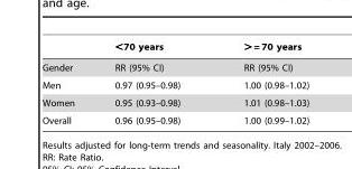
<table><thead><tr><td></td><td>&lt;70 years</td><td>&gt; = 70 years</td></tr></thead><tbody><tr><td>Gender</td><td>RR (95% CI)</td><td>RR (95% CI)</td></tr><tr><td>Men</td><td>0.97 (0.95–0.98)</td><td>1.00 (0.98–1.02)</td></tr><tr><td>Women</td><td>0.95 (0.93–0.98)</td><td>1.01 (0.98–1.03)</td></tr><tr><td>Overall</td><td>0.96 (0.95–0.98)</td><td>1.00 (0.99–1.02)</td></tr></tbody></table>